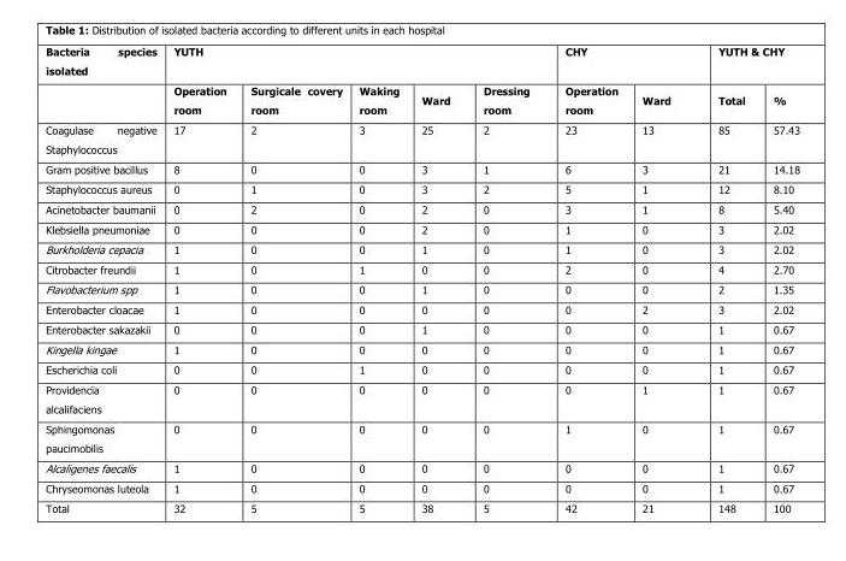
<table><thead><tr><td rowspan="2">Bacteria species isolated</td><td colspan="5">YUTH</td><td colspan="2">CHY</td><td colspan="2">YUTH &amp; CHY</td></tr><tr><td>Operation room</td><td>Surgicale covery room</td><td>Waking room</td><td>Ward</td><td>Dressing room</td><td>Operation room</td><td>Ward</td><td>Total</td><td>%</td></tr></thead><tbody><tr><td>Coagulase negative Staphylococcus</td><td>17</td><td>2</td><td>3</td><td>25</td><td>2</td><td>23</td><td>13</td><td>85</td><td>57.43</td></tr><tr><td>Gram positive bacillus</td><td>8</td><td>0</td><td>0</td><td>3</td><td>1</td><td>6</td><td>3</td><td>21</td><td>14.18</td></tr><tr><td>Staphylococcus aureus</td><td>0</td><td>1</td><td>0</td><td>3</td><td>2</td><td>5</td><td>1</td><td>12</td><td>8.10</td></tr><tr><td>Acinetobacter baumanii</td><td>0</td><td>2</td><td>0</td><td>2</td><td>0</td><td>3</td><td>1</td><td>8</td><td>5.40</td></tr><tr><td>Klebsiella pneumoniae</td><td>0</td><td>0</td><td>0</td><td>2</td><td>0</td><td>1</td><td>0</td><td>3</td><td>2.02</td></tr><tr><td>Burkholderia cepacia</td><td>1</td><td>0</td><td>0</td><td>1</td><td>0</td><td>1</td><td>0</td><td>3</td><td>2.02</td></tr><tr><td>Citrobacter freundii</td><td>1</td><td>0</td><td>1</td><td>0</td><td>0</td><td>2</td><td>0</td><td>4</td><td>2.70</td></tr><tr><td>Flavobacterium spp</td><td>1</td><td>0</td><td>0</td><td>1</td><td>0</td><td>0</td><td>0</td><td>2</td><td>1.35</td></tr><tr><td>Enterobacter cloacae</td><td>1</td><td>0</td><td>0</td><td>0</td><td>0</td><td>0</td><td>2</td><td>3</td><td>2.02</td></tr><tr><td>Enterobacter sakazakii</td><td>0</td><td>0</td><td>0</td><td>1</td><td>0</td><td>0</td><td>0</td><td>1</td><td>0.67</td></tr><tr><td>Kingella kingae</td><td>1</td><td>0</td><td>0</td><td>0</td><td>0</td><td>0</td><td>0</td><td>1</td><td>0.67</td></tr><tr><td>Escherichia coli</td><td>0</td><td>0</td><td>1</td><td>0</td><td>0</td><td>0</td><td>0</td><td>1</td><td>0.67</td></tr><tr><td>Providencia alcalifaciens</td><td>0</td><td>0</td><td>0</td><td>0</td><td>0</td><td>0</td><td>1</td><td>1</td><td>0.67</td></tr><tr><td>Sphingomonas paucimobilis</td><td>0</td><td>0</td><td>0</td><td>0</td><td>0</td><td>1</td><td>0</td><td>1</td><td>0.67</td></tr><tr><td>Alcaligenes faecalis</td><td>1</td><td>0</td><td>0</td><td>0</td><td>0</td><td>0</td><td>0</td><td>1</td><td>0.67</td></tr><tr><td>Chryseomonas luteola</td><td>1</td><td>0</td><td>0</td><td>0</td><td>0</td><td>0</td><td>0</td><td>1</td><td>0.67</td></tr><tr><td>Total</td><td>32</td><td>5</td><td>5</td><td>38</td><td>5</td><td>42</td><td>21</td><td>148</td><td>100</td></tr></tbody></table>